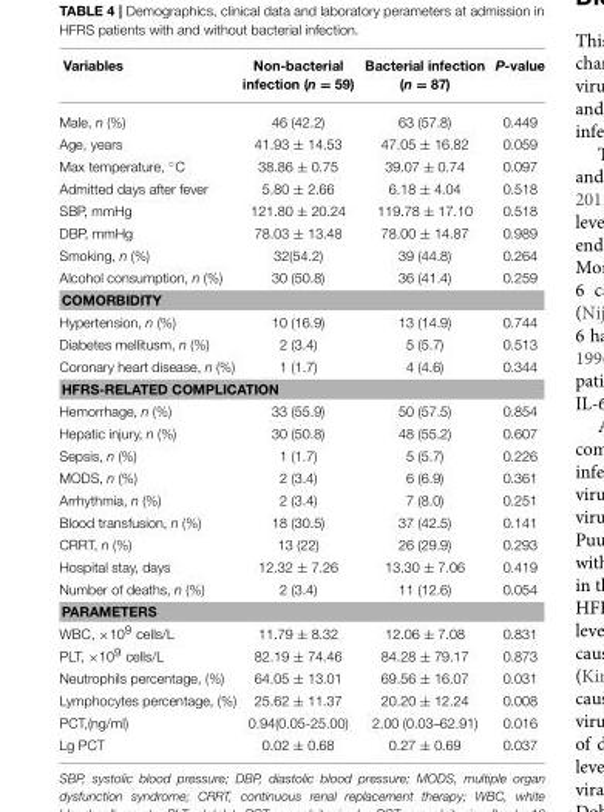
<table><thead><tr><td>Variables</td><td>Non-bacterial infection (n = 59)</td><td>Bacterial infection (n = 87)</td><td>P-value</td></tr></thead><tbody><tr><td>Male, n (%)</td><td>46 (42.2)</td><td>63 (57.8)</td><td>0.449</td></tr><tr><td>Age, years</td><td>41.93 ± 14.53</td><td>47.05 ± 16.82</td><td>0.059</td></tr><tr><td>Max temperature, ◦C</td><td>38.86 ± 0.75</td><td>39.07 ± 0.74</td><td>0.097</td></tr><tr><td>Admitted days after fever</td><td>5.80 ± 2.66</td><td>6.18 ± 4.04</td><td>0.518</td></tr><tr><td>SBP, mmHg</td><td>121.80 ± 20.24</td><td>119.78 ± 17.10</td><td>0.518</td></tr><tr><td>DBP, mmHg</td><td>78.03 ± 13.48</td><td>78.00 ± 14.87</td><td>0.989</td></tr><tr><td>Smoking, n (%)</td><td>32(54.2)</td><td>39 (44.8)</td><td>0.264</td></tr><tr><td>Alcohol consumption, n (%)</td><td>30 (50.8)</td><td>36 (41.4)</td><td>0.259</td></tr><tr><td colspan="4">COMORBIDITY</td></tr><tr><td>Hypertension, n (%)</td><td>10 (16.9)</td><td>13 (14.9)</td><td>0.744</td></tr><tr><td>Diabetes mellitusm, n (%)</td><td>2 (3.4)</td><td>5 (5.7)</td><td>0.513</td></tr><tr><td>Coronary heart disease, n (%)</td><td>1 (1.7)</td><td>4 (4.6)</td><td>0.344</td></tr><tr><td colspan="4">HFRS-RELATED COMPLICATION</td></tr><tr><td>Hemorrhage, n (%)</td><td>33 (55.9)</td><td>50 (57.5)</td><td>0.854</td></tr><tr><td>Hepatic injury, n (%)</td><td>30 (50.8)</td><td>48 (55.2)</td><td>0.607</td></tr><tr><td>Sepsis, n (%)</td><td>1 (1.7)</td><td>5 (5.7)</td><td>0.226</td></tr><tr><td>MODS, n (%)</td><td>2 (3.4)</td><td>6 (6.9)</td><td>0.361</td></tr><tr><td>Arrhythmia, n (%)</td><td>2 (3.4)</td><td>7 (8.0)</td><td>0.251</td></tr><tr><td>Blood transfusion, n (%)</td><td>18 (30.5)</td><td>37 (42.5)</td><td>0.141</td></tr><tr><td>CRRT, n (%)</td><td>13 (22)</td><td>26 (29.9)</td><td>0.293</td></tr><tr><td>Hospital stay, days</td><td>12.32 ± 7.26</td><td>13.30 ± 7.06</td><td>0.419</td></tr><tr><td>Number of deaths, n (%)</td><td>2 (3.4)</td><td>11 (12.6)</td><td>0.054</td></tr><tr><td colspan="4">PARAMETERS</td></tr><tr><td>WBC, ×10<sup>9</sup> cells/L</td><td>11.79 ± 8.32</td><td>12.06 ± 7.08</td><td>0.831</td></tr><tr><td>PLT, ×10<sup>9</sup> cells/L</td><td>82.19 ± 74.46</td><td>84.28 ± 79.17</td><td>0.873</td></tr><tr><td>Neutrophils percentage, (%)</td><td>64.05 ± 13.01</td><td>69.56 ± 16.07</td><td>0.031</td></tr><tr><td>Lymphocytes percentage, (%)</td><td>25.62 ± 11.37</td><td>20.20 ± 12.24</td><td>0.008</td></tr><tr><td>PCT,(ng/ml)</td><td>0.94(0.05-25.00)</td><td>2.00 (0.03–62.91)</td><td>0.016</td></tr><tr><td>Lg PCT</td><td>0.02 ± 0.68</td><td>0.27 ± 0.69</td><td>0.037</td></tr></tbody></table>